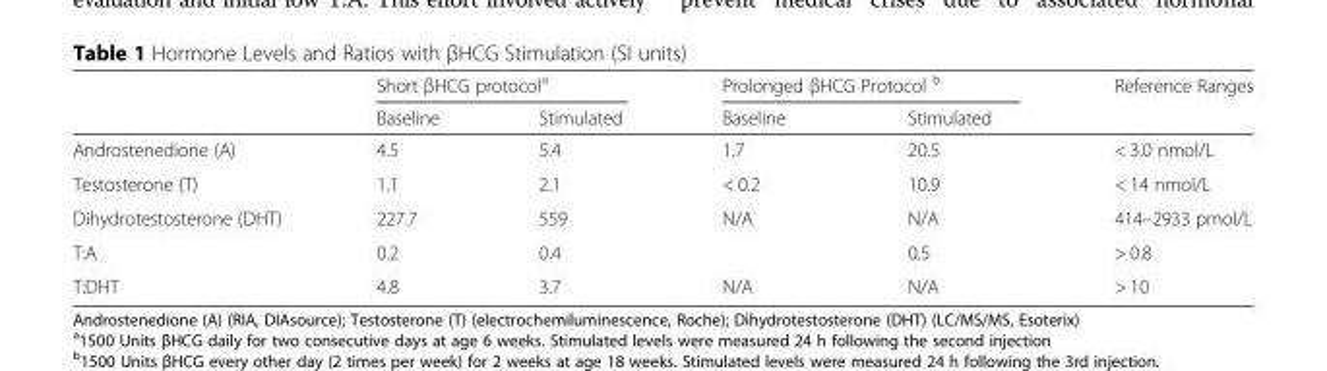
<table><thead><tr><td rowspan="2"></td><td colspan="2">Short βHCG protocol<sup>a</sup></td><td colspan="2">Prolonged βHCG Protocol <sup>b</sup></td><td rowspan="2">Reference Ranges</td></tr><tr><td>Baseline</td><td>Stimulated</td><td>Baseline</td><td>Stimulated</td></tr></thead><tbody><tr><td>Androstenedione (A)</td><td>4.5</td><td>5.4</td><td>1.7</td><td>20.5</td><td>&lt; 3.0 nmol/L</td></tr><tr><td>Testosterone (T)</td><td>1.1</td><td>2.1</td><td>&lt; 0.2</td><td>10.9</td><td>&lt; 14 nmol/L</td></tr><tr><td>Dihydrotestosterone (DHT)</td><td>227.7</td><td>559</td><td>N/A</td><td>N/A</td><td>414–2933 pmol/L</td></tr><tr><td>T:A</td><td>0.2</td><td>0.4</td><td></td><td>0.5</td><td>&gt; 0.8</td></tr><tr><td>T:DHT</td><td>4.8</td><td>3.7</td><td>N/A</td><td>N/A</td><td>&gt; 10</td></tr></tbody></table>